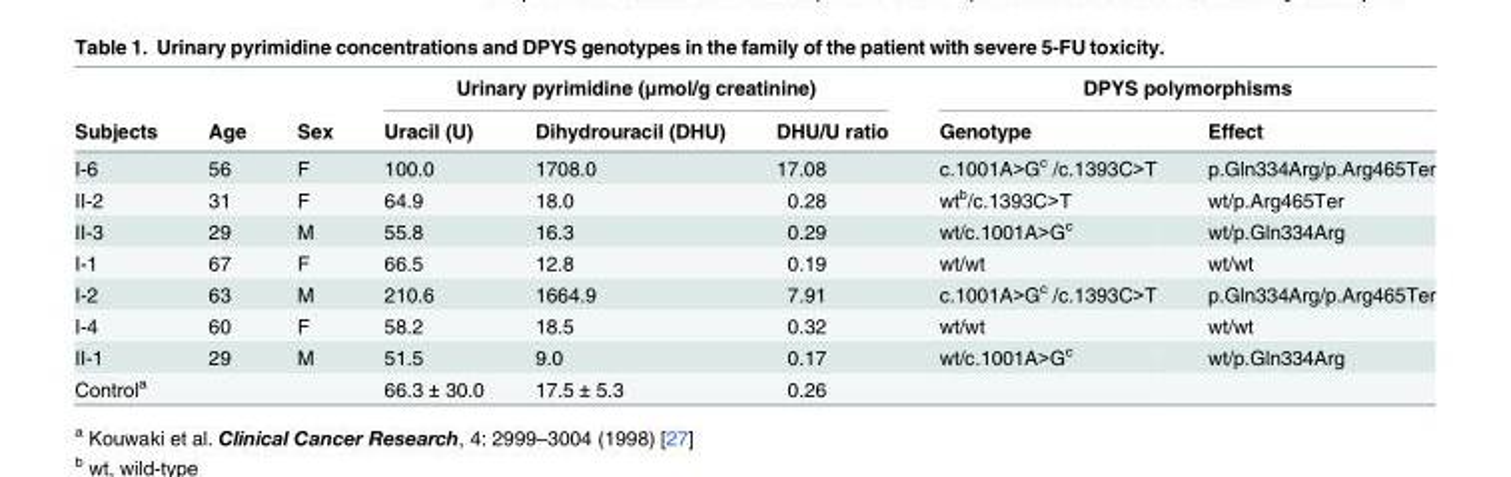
<table><thead><tr><td rowspan="2">Subjects</td><td rowspan="2">Age</td><td rowspan="2">Sex</td><td colspan="3">Urinary pyrimidine (μmol/g creatinine)</td><td colspan="2">DPYS polymorphisms</td></tr><tr><td>Uracil (U)</td><td>Dihydrouracil (DHU)</td><td>DHU/U ratio</td><td>Genotype</td><td>Effect</td></tr></thead><tbody><tr><td>I-6</td><td>56</td><td>F</td><td>100.0</td><td>1708.0</td><td>17.08</td><td>c.1001A&gt;G<sup>c</sup> /c.1393C&gt;T</td><td>p.Gln334Arg/p.Arg465Ter</td></tr><tr><td>II-2</td><td>31</td><td>F</td><td>64.9</td><td>18.0</td><td>0.28</td><td>wt<sup>b</sup>/c.1393C&gt;T</td><td>wt/p.Arg465Ter</td></tr><tr><td>II-3</td><td>29</td><td>M</td><td>55.8</td><td>16.3</td><td>0.29</td><td>wt/c.1001A&gt;G<sup>c</sup></td><td>wt/p.Gln334Arg</td></tr><tr><td>I-1</td><td>67</td><td>F</td><td>66.5</td><td>12.8</td><td>0.19</td><td>wt/wt</td><td>wt/wt</td></tr><tr><td>I-2</td><td>63</td><td>M</td><td>210.6</td><td>1664.9</td><td>7.91</td><td>c.1001A&gt;G<sup>c</sup> /c.1393C&gt;T</td><td>p.Gln334Arg/p.Arg465Ter</td></tr><tr><td>I-4</td><td>60</td><td>F</td><td>58.2</td><td>18.5</td><td>0.32</td><td>wt/wt</td><td>wt/wt</td></tr><tr><td>II-1</td><td>29</td><td>M</td><td>51.5</td><td>9.0</td><td>0.17</td><td>wt/c.1001A&gt;G<sup>c</sup></td><td>wt/p.Gln334Arg</td></tr><tr><td>Control<sup>a</sup></td><td></td><td></td><td>66.3 ± 30.0</td><td>17.5 ± 5.3</td><td>0.26</td><td></td><td></td></tr></tbody></table>